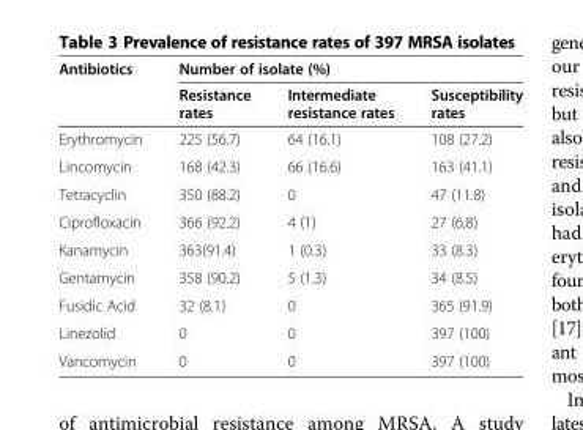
<table><thead><tr><td rowspan="2">Antibiotics</td><td colspan="3">Number of isolate (%)</td></tr><tr><td>Resistance rates</td><td>Intermediate resistance rates</td><td>Susceptibility rates</td></tr></thead><tbody><tr><td>Erythromycin</td><td>225 (56.7)</td><td>64 (16.1)</td><td>108 (27.2)</td></tr><tr><td>Lincomycin</td><td>168 (42.3)</td><td>66 (16.6)</td><td>163 (41.1)</td></tr><tr><td>Tetracyclin</td><td>350 (88.2)</td><td>0</td><td>47 (11.8)</td></tr><tr><td>Ciprofloxacin</td><td>366 (92.2)</td><td>4 (1)</td><td>27 (6,8)</td></tr><tr><td>Kanamycin</td><td>363(91.4)</td><td>1 (0.3)</td><td>33 (8.3)</td></tr><tr><td>Gentamycin</td><td>358 (90.2)</td><td>5 (1.3)</td><td>34 (8.5)</td></tr><tr><td>Fusidic Acid</td><td>32 (8.1)</td><td>0</td><td>365 (91.9)</td></tr><tr><td>Linezolid</td><td>0</td><td>0</td><td>397 (100)</td></tr><tr><td>Vancomycin</td><td>0</td><td>0</td><td>397 (100)</td></tr></tbody></table>